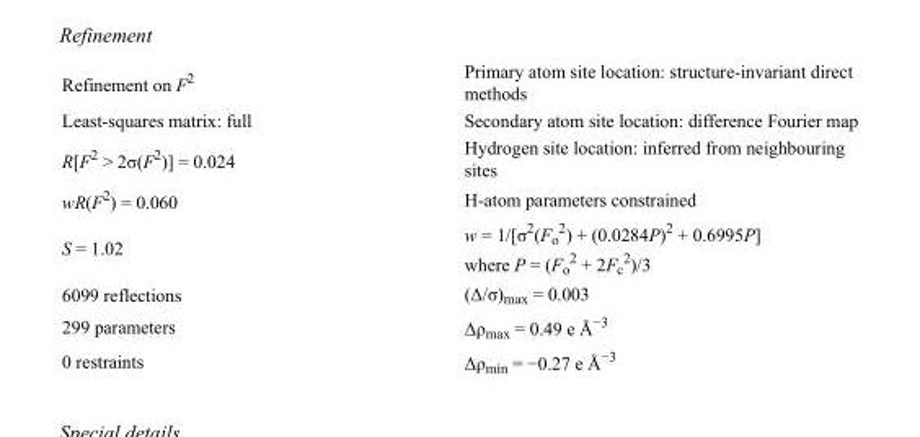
<table><tbody><tr><td>Refinement on F<sup>2</sup></td><td>Primary atom site location: structure-invariant direct methods</td></tr><tr><td>Least-squares matrix: full</td><td>Secondary atom site location: difference Fourier map</td></tr><tr><td>R[F<sup>2</sup> &gt; 2σ(F<sup>2</sup>)] = 0.024</td><td>Hydrogen site location: inferred from neighbouring sites</td></tr><tr><td>wR(F<sup>2</sup>) = 0.060</td><td>H-atom parameters constrained</td></tr><tr><td>S = 1.02</td><td>w = 1/[σ<sup>2</sup>(F<sub>o</sub> <sup>2</sup>) + (0.0284P)<sup>2</sup> + 0.6995P] where P = (F<sub>o</sub> <sup>2</sup> + 2F<sub>c</sub> <sup>2</sup>)/3</td></tr><tr><td>6099 reflections</td><td>(Δ/σ)<sub>max</sub> = 0.003</td></tr><tr><td>299 parameters</td><td>Δρ<sub>max</sub> = 0.49 e Å<sup>−3</sup></td></tr><tr><td>0 restraints</td><td>Δρ<sub>min</sub> = −0.27 e Å<sup>−3</sup></td></tr></tbody></table>